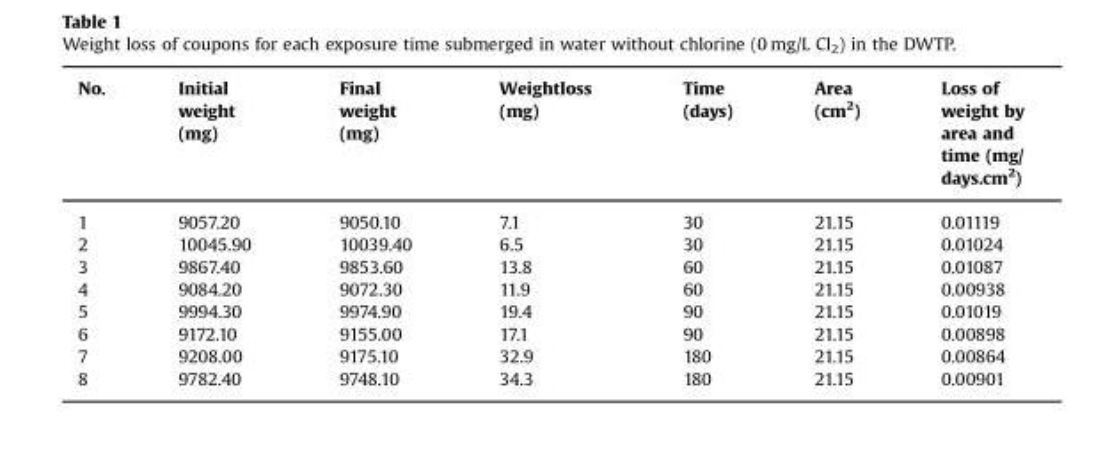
<table><thead><tr><td>No.</td><td>Initial weight (mg)</td><td>Final weight (mg)</td><td>Weightloss (mg)</td><td>Time (days)</td><td>Area (cm<sup>2</sup>)</td><td>Loss of weight by area and time (mg/ days.cm<sup>2</sup>)</td></tr></thead><tbody><tr><td>1</td><td>9057.20</td><td>9050.10</td><td>7.1</td><td>30</td><td>21.15</td><td>0.01119</td></tr><tr><td>2</td><td>10045.90</td><td>10039.40</td><td>6.5</td><td>30</td><td>21.15</td><td>0.01024</td></tr><tr><td>3</td><td>9867.40</td><td>9853.60</td><td>13.8</td><td>60</td><td>21.15</td><td>0.01087</td></tr><tr><td>4</td><td>9084.20</td><td>9072.30</td><td>11.9</td><td>60</td><td>21.15</td><td>0.00938</td></tr><tr><td>5</td><td>9994.30</td><td>9974.90</td><td>19.4</td><td>90</td><td>21.15</td><td>0.01019</td></tr><tr><td>6</td><td>9172.10</td><td>9155.00</td><td>17.1</td><td>90</td><td>21.15</td><td>0.00898</td></tr><tr><td>7</td><td>9208.00</td><td>9175.10</td><td>32.9</td><td>180</td><td>21.15</td><td>0.00864</td></tr><tr><td>8</td><td>9782.40</td><td>9748.10</td><td>34.3</td><td>180</td><td>21.15</td><td>0.00901</td></tr></tbody></table>